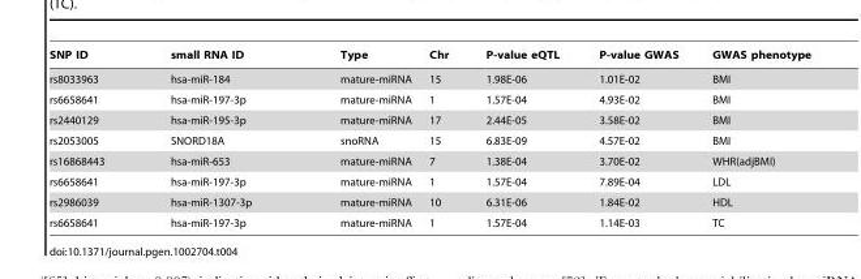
<table><thead><tr><td>SNP ID</td><td>small RNA ID</td><td>Type</td><td>Chr</td><td>P-value eQTL</td><td>P-value GWAS</td><td>GWAS phenotype</td></tr></thead><tbody><tr><td>rs8033963</td><td>hsa-miR-184</td><td>mature-miRNA</td><td>15</td><td>1.98E-06</td><td>1.01E-02</td><td>BMI</td></tr><tr><td>rs6658641</td><td>hsa-miR-197-3p</td><td>mature-miRNA</td><td>1</td><td>1.57E-04</td><td>4.93E-02</td><td>BMI</td></tr><tr><td>rs2440129</td><td>hsa-miR-195-3p</td><td>mature-miRNA</td><td>17</td><td>2.44E-05</td><td>3.58E-02</td><td>BMI</td></tr><tr><td>rs2053005</td><td>SNORD18A</td><td>snoRNA</td><td>15</td><td>6.83E-09</td><td>4.57E-02</td><td>BMI</td></tr><tr><td>rs16868443</td><td>hsa-miR-653</td><td>mature-miRNA</td><td>7</td><td>1.38E-04</td><td>3.70E-02</td><td>WHR(adjBMI)</td></tr><tr><td>rs6658641</td><td>hsa-miR-197-3p</td><td>mature-miRNA</td><td>1</td><td>1.57E-04</td><td>7.89E-04</td><td>LDL</td></tr><tr><td>rs2986039</td><td>hsa-miR-1307-3p</td><td>mature-miRNA</td><td>10</td><td>6.31E-06</td><td>1.84E-02</td><td>HDL</td></tr><tr><td>rs6658641</td><td>hsa-miR-197-3p</td><td>mature-miRNA</td><td>1</td><td>1.57E-04</td><td>1.14E-03</td><td>TC</td></tr></tbody></table>